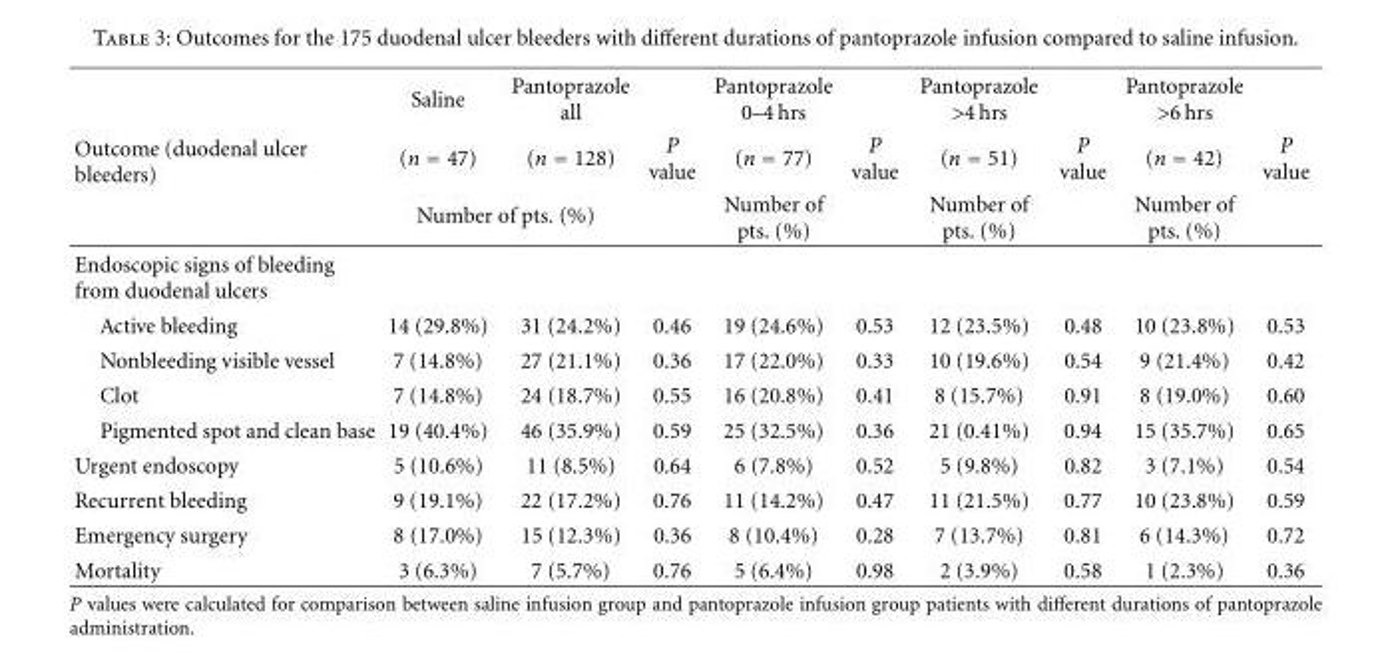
<table><thead><tr><td rowspan="3">Outcome (duodenal ulcer bleeders)</td><td rowspan="2">Saline (n = 47)</td><td rowspan="2">Pantoprazole all (n = 128)</td><td rowspan="3">P value</td><td rowspan="3">Pantoprazole 0–4 hrs (n = 77) Number of pts. (%)</td><td rowspan="3">P value</td><td rowspan="3">Pantoprazole &gt;4 hrs (n = 51) Number of pts. (%)</td><td rowspan="3">P value</td><td rowspan="3">Pantoprazole &gt;6 hrs (n = 42) Number of pts. (%)</td><td rowspan="3">P value</td></tr><tr></tr><tr><td colspan="2">Number of pts. (%)</td></tr></thead><tbody><tr><td colspan="10">Endoscopic signs of bleeding from duodenal ulcers</td></tr><tr><td>Active bleeding</td><td>14 (29.8%)</td><td>31 (24.2%)</td><td>0.46</td><td>19 (24.6%)</td><td>0.53</td><td>12 (23.5%)</td><td>0.48</td><td>10 (23.8%)</td><td>0.53</td></tr><tr><td>Nonbleeding visible vessel</td><td>7 (14.8%)</td><td>27 (21.1%)</td><td>0.36</td><td>17 (22.0%)</td><td>0.33</td><td>10 (19.6%)</td><td>0.54</td><td>9 (21.4%)</td><td>0.42</td></tr><tr><td>Clot</td><td>7 (14.8%)</td><td>24 (18.7%)</td><td>0.55</td><td>16 (20.8%)</td><td>0.41</td><td>8 (15.7%)</td><td>0.91</td><td>8 (19.0%)</td><td>0.60</td></tr><tr><td>Pigmented spot and clean base</td><td>19 (40.4%)</td><td>46 (35.9%)</td><td>0.59</td><td>25 (32.5%)</td><td>0.36</td><td>21 (0.41%)</td><td>0.94</td><td>15 (35.7%)</td><td>0.65</td></tr><tr><td>Urgent endoscopy</td><td>5 (10.6%)</td><td>11 (8.5%)</td><td>0.64</td><td>6 (7.8%)</td><td>0.52</td><td>5 (9.8%)</td><td>0.82</td><td>3 (7.1%)</td><td>0.54</td></tr><tr><td>Recurrent bleeding</td><td>9 (19.1%)</td><td>22 (17.2%)</td><td>0.76</td><td>11 (14.2%)</td><td>0.47</td><td>11 (21.5%)</td><td>0.77</td><td>10 (23.8%)</td><td>0.59</td></tr><tr><td>Emergency surgery</td><td>8 (17.0%)</td><td>15 (12.3%)</td><td>0.36</td><td>8 (10.4%)</td><td>0.28</td><td>7 (13.7%)</td><td>0.81</td><td>6 (14.3%)</td><td>0.72</td></tr><tr><td>Mortality</td><td>3 (6.3%)</td><td>7 (5.7%)</td><td>0.76</td><td>5 (6.4%)</td><td>0.98</td><td>2 (3.9%)</td><td>0.58</td><td>1 (2.3%)</td><td>0.36</td></tr></tbody></table>